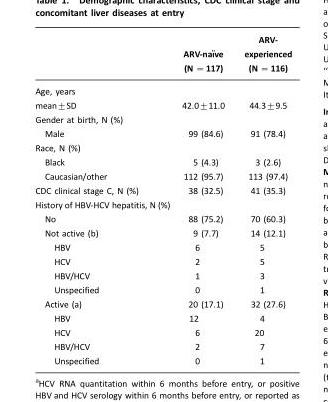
<table><thead><tr><td></td><td>ARV-naı¨ve (N �117)</td><td>ARV- experienced (N =116)</td></tr></thead><tbody><tr><td colspan="3">Age, years</td></tr><tr><td>mean±SD</td><td>42.0±11.0</td><td>44.3±9.5</td></tr><tr><td colspan="3">Gender at birth, N (%)</td></tr><tr><td>Male</td><td>99 (84.6)</td><td>91 (78.4)</td></tr><tr><td colspan="3">Race, N (%)</td></tr><tr><td>Black</td><td>5 (4.3)</td><td>3 (2.6)</td></tr><tr><td>Caucasian/other</td><td>112 (95.7)</td><td>113 (97.4)</td></tr><tr><td>CDC clinical stage C, N (%)</td><td>38 (32.5)</td><td>41 (35.3)</td></tr><tr><td colspan="3">History of HBV-HCV hepatitis, N (%)</td></tr><tr><td>No</td><td>88 (75.2)</td><td>70 (60.3)</td></tr><tr><td>Not active (b)</td><td>9 (7.7)</td><td>14 (12.1)</td></tr><tr><td>HBV</td><td>6</td><td>5</td></tr><tr><td>HCV</td><td>2</td><td>5</td></tr><tr><td>HBV/HCV</td><td>1</td><td>3</td></tr><tr><td>Unspecified</td><td>0</td><td>1</td></tr><tr><td>Active (a)</td><td>20 (17.1)</td><td>32 (27.6)</td></tr><tr><td>HBV</td><td>12</td><td>4</td></tr><tr><td>HCV</td><td>6</td><td>20</td></tr><tr><td>HBV/HCV</td><td>2</td><td>7</td></tr><tr><td>Unspecified</td><td>0</td><td>1</td></tr></tbody></table>